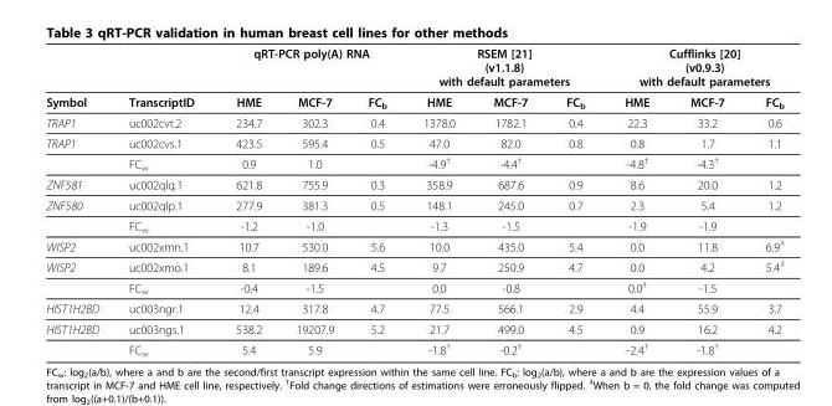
<table><thead><tr><td rowspan="2">Symbol</td><td rowspan="2">TranscriptID</td><td colspan="3">qRT-PCR poly(A) RNA</td><td colspan="3">RSEM [21] (v1.1.8) with default parameters</td><td colspan="3">Cufflinks [20] (v0.9.3) with default parameters</td></tr><tr><td>HME</td><td>MCF-7</td><td>FC<sub>b</sub></td><td>HME</td><td>MCF-7</td><td>FC<sub>b</sub></td><td>HME</td><td>MCF-7</td><td>FC<sub>b</sub></td></tr></thead><tbody><tr><td>TRAP1</td><td>uc002cvt.2</td><td>234.7</td><td>302.3</td><td>0.4</td><td>1378.0</td><td>1782.1</td><td>0.4</td><td>22.3</td><td>33.2</td><td>0.6</td></tr><tr><td rowspan="2">TRAP1</td><td>uc002cvs.1</td><td>423.5</td><td>595.4</td><td>0.5</td><td>47.0</td><td>82.0</td><td>0.8</td><td>0.8</td><td>1.7</td><td>1.1</td></tr><tr><td>FC<sub>w</sub></td><td>0.9</td><td>1.0</td><td></td><td>-4.9<sup>†</sup></td><td>-4.4<sup>†</sup></td><td></td><td>-4.8<sup>†</sup></td><td>-4.3<sup>†</sup></td><td></td></tr><tr><td>ZNF581</td><td>uc002qlq.1</td><td>621.8</td><td>755.9</td><td>0.3</td><td>358.9</td><td>687.6</td><td>0.9</td><td>8.6</td><td>20.0</td><td>1.2</td></tr><tr><td rowspan="2">ZNF580</td><td>uc002qlp.1</td><td>277.9</td><td>381.3</td><td>0.5</td><td>148.1</td><td>245.0</td><td>0.7</td><td>2.3</td><td>5.4</td><td>1.2</td></tr><tr><td>FC<sub>w</sub></td><td>-1.2</td><td>-1.0</td><td></td><td>-1.3</td><td>-1.5</td><td></td><td>-1.9</td><td>-1.9</td><td></td></tr><tr><td>WISP2</td><td>uc002xmn.1</td><td>10.7</td><td>530.0</td><td>5.6</td><td>10.0</td><td>435.0</td><td>5.4</td><td>0.0</td><td>11.8</td><td>6.9<sup>‡</sup></td></tr><tr><td rowspan="2">WISP2</td><td>uc002xmo.1</td><td>8.1</td><td>189.6</td><td>4.5</td><td>9.7</td><td>250.9</td><td>4.7</td><td>0.0</td><td>4.2</td><td>5.4<sup>‡</sup></td></tr><tr><td>FC<sub>w</sub></td><td>-0.4</td><td>-1.5</td><td></td><td>0.0</td><td>-0.8</td><td></td><td>0.0<sup>‡</sup></td><td>-1.5</td><td></td></tr><tr><td>HIST1H2BD</td><td>uc003ngr.1</td><td>12.4</td><td>317.8</td><td>4.7</td><td>77.5</td><td>566.1</td><td>2.9</td><td>4.4</td><td>55.9</td><td>3.7</td></tr><tr><td rowspan="2">HIST1H2BD</td><td>uc003ngs.1</td><td>538.2</td><td>19207.9</td><td>5.2</td><td>21.7</td><td>499.0</td><td>4.5</td><td>0.9</td><td>16.2</td><td>4.2</td></tr><tr><td>FC<sub>w</sub></td><td>5.4</td><td>5.9</td><td></td><td>-1.8<sup>†</sup></td><td>-0.2<sup>†</sup></td><td></td><td>-2.4<sup>†</sup></td><td>-1.8<sup>†</sup></td><td></td></tr></tbody></table>